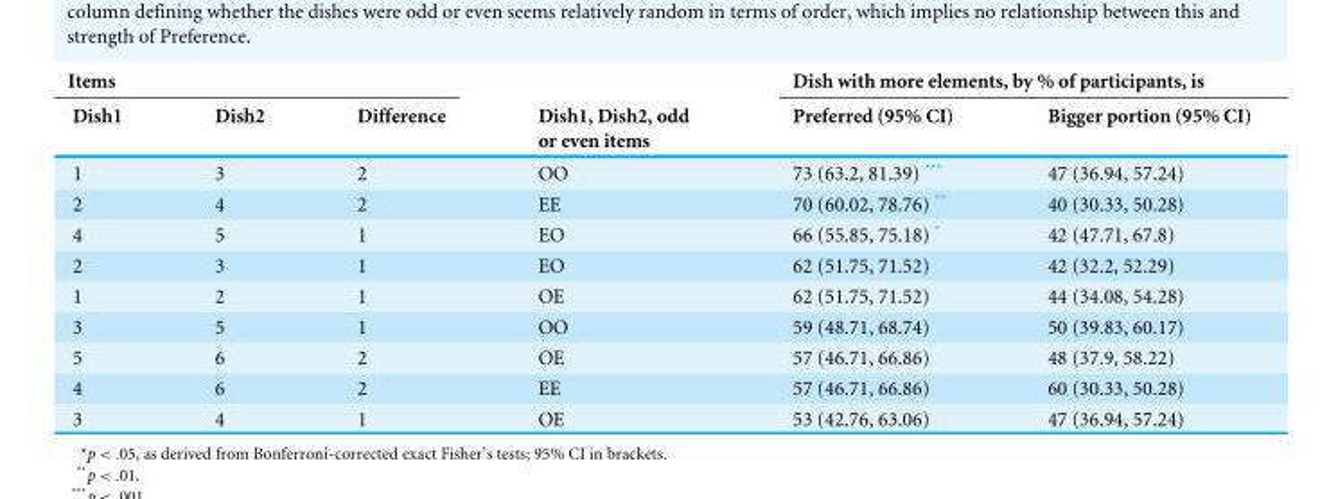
<table><thead><tr><td colspan="3">Items</td><td rowspan="2">Dish1, Dish2, odd or even items</td><td colspan="2">Dish with more elements, by % of participants, is</td></tr><tr><td>Dish1</td><td>Dish2</td><td>Difference</td><td>Preferred (95% CI)</td><td>Bigger portion (95% CI)</td></tr></thead><tbody><tr><td>1</td><td>3</td><td>2</td><td>OO</td><td>73 (63.2, 81.39) ***</td><td>47 (36.94, 57.24)</td></tr><tr><td>2</td><td>4</td><td>2</td><td>EE</td><td>70 (60.02, 78.76) **</td><td>40 (30.33, 50.28)</td></tr><tr><td>4</td><td>5</td><td>1</td><td>EO</td><td>66 (55.85, 75.18) *</td><td>42 (47.71, 67.8)</td></tr><tr><td>2</td><td>3</td><td>1</td><td>EO</td><td>62 (51.75, 71.52)</td><td>42 (32.2, 52.29)</td></tr><tr><td>1</td><td>2</td><td>1</td><td>OE</td><td>62 (51.75, 71.52)</td><td>44 (34.08, 54.28)</td></tr><tr><td>3</td><td>5</td><td>1</td><td>OO</td><td>59 (48.71, 68.74)</td><td>50 (39.83, 60.17)</td></tr><tr><td>5</td><td>6</td><td>2</td><td>OE</td><td>57 (46.71, 66.86)</td><td>48 (37.9, 58.22)</td></tr><tr><td>4</td><td>6</td><td>2</td><td>EE</td><td>57 (46.71, 66.86)</td><td>60 (30.33, 50.28)</td></tr><tr><td>3</td><td>4</td><td>1</td><td>OE</td><td>53 (42.76, 63.06)</td><td>47 (36.94, 57.24)</td></tr></tbody></table>